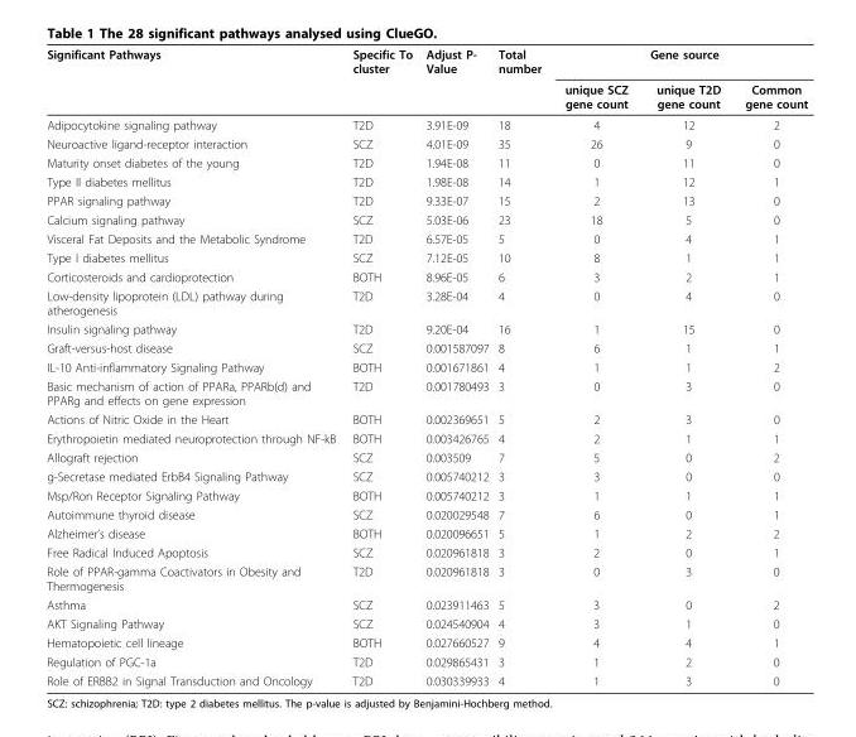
<table><thead><tr><td rowspan="2">Significant Pathways</td><td rowspan="2">Specific To cluster</td><td rowspan="2">Adjust P- Value</td><td rowspan="2">Total number</td><td colspan="3">Gene source</td></tr><tr><td>unique SCZ gene count</td><td>unique T2D gene count</td><td>Common gene count</td></tr></thead><tbody><tr><td>Adipocytokine signaling pathway</td><td>T2D</td><td>3.91E-09</td><td>18</td><td>4</td><td>12</td><td>2</td></tr><tr><td>Neuroactive ligand-receptor interaction</td><td>SCZ</td><td>4.01E-09</td><td>35</td><td>26</td><td>9</td><td>0</td></tr><tr><td>Maturity onset diabetes of the young</td><td>T2D</td><td>1.94E-08</td><td>11</td><td>0</td><td>11</td><td>0</td></tr><tr><td>Type II diabetes mellitus</td><td>T2D</td><td>1.98E-08</td><td>14</td><td>1</td><td>12</td><td>1</td></tr><tr><td>PPAR signaling pathway</td><td>T2D</td><td>9.33E-07</td><td>15</td><td>2</td><td>13</td><td>0</td></tr><tr><td>Calcium signaling pathway</td><td>SCZ</td><td>5.03E-06</td><td>23</td><td>18</td><td>5</td><td>0</td></tr><tr><td>Visceral Fat Deposits and the Metabolic Syndrome</td><td>T2D</td><td>6.57E-05</td><td>5</td><td>0</td><td>4</td><td>1</td></tr><tr><td>Type I diabetes mellitus</td><td>SCZ</td><td>7.12E-05</td><td>10</td><td>8</td><td>1</td><td>1</td></tr><tr><td>Corticosteroids and cardioprotection</td><td>BOTH</td><td>8.96E-05</td><td>6</td><td>3</td><td>2</td><td>1</td></tr><tr><td>Low-density lipoprotein (LDL) pathway during atherogenesis</td><td>T2D</td><td>3.28E-04</td><td>4</td><td>0</td><td>4</td><td>0</td></tr><tr><td>Insulin signaling pathway</td><td>T2D</td><td>9.20E-04</td><td>16</td><td>1</td><td>15</td><td>0</td></tr><tr><td>Graft-versus-host disease</td><td>SCZ</td><td>0.001587097</td><td>8</td><td>6</td><td>1</td><td>1</td></tr><tr><td>IL-10 Anti-inflammatory Signaling Pathway</td><td>BOTH</td><td>0.001671861</td><td>4</td><td>1</td><td>1</td><td>2</td></tr><tr><td>Basic mechanism of action of PPARa, PPARb(d) and PPARg and effects on gene expression</td><td>T2D</td><td>0.001780493</td><td>3</td><td>0</td><td>3</td><td>0</td></tr><tr><td>Actions of Nitric Oxide in the Heart</td><td>BOTH</td><td>0.002369651</td><td>5</td><td>2</td><td>3</td><td>0</td></tr><tr><td>Erythropoietin mediated neuroprotection through NF-kB</td><td>BOTH</td><td>0.003426765</td><td>4</td><td>2</td><td>1</td><td>1</td></tr><tr><td>Allograft rejection</td><td>SCZ</td><td>0.003509</td><td>7</td><td>5</td><td>0</td><td>2</td></tr><tr><td>g-Secretase mediated ErbB4 Signaling Pathway</td><td>SCZ</td><td>0.005740212</td><td>3</td><td>3</td><td>0</td><td>0</td></tr><tr><td>Msp/Ron Receptor Signaling Pathway</td><td>BOTH</td><td>0.005740212</td><td>3</td><td>1</td><td>1</td><td>1</td></tr><tr><td>Autoimmune thyroid disease</td><td>SCZ</td><td>0.020029548</td><td>7</td><td>6</td><td>0</td><td>1</td></tr><tr><td>Alzheimer’s disease</td><td>BOTH</td><td>0.020096651</td><td>5</td><td>1</td><td>2</td><td>2</td></tr><tr><td>Free Radical Induced Apoptosis</td><td>SCZ</td><td>0.020961818</td><td>3</td><td>2</td><td>0</td><td>1</td></tr><tr><td>Role of PPAR-gamma Coactivators in Obesity and Thermogenesis</td><td>T2D</td><td>0.020961818</td><td>3</td><td>0</td><td>3</td><td>0</td></tr><tr><td>Asthma</td><td>SCZ</td><td>0.023911463</td><td>5</td><td>3</td><td>0</td><td>2</td></tr><tr><td>AKT Signaling Pathway</td><td>SCZ</td><td>0.024540904</td><td>4</td><td>3</td><td>1</td><td>0</td></tr><tr><td>Hematopoietic cell lineage</td><td>BOTH</td><td>0.027660527</td><td>9</td><td>4</td><td>4</td><td>1</td></tr><tr><td>Regulation of PGC-1a</td><td>T2D</td><td>0.029865431</td><td>3</td><td>1</td><td>2</td><td>0</td></tr><tr><td>Role of ERBB2 in Signal Transduction and Oncology</td><td>T2D</td><td>0.030339933</td><td>4</td><td>1</td><td>3</td><td>0</td></tr></tbody></table>